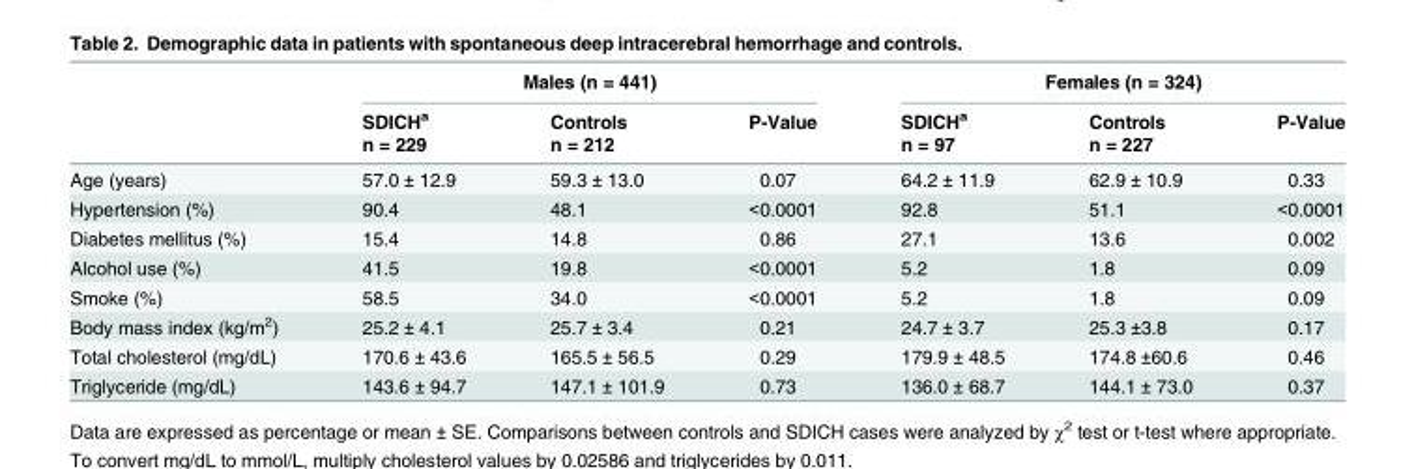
<table><thead><tr><td rowspan="3"></td><td colspan="3">Males (n = 441)</td><td colspan="3">Females (n = 324)</td></tr><tr><td rowspan="2">SDICH<sup>a</sup> n = 229</td><td rowspan="2">Controls n = 212</td><td rowspan="2">P-Value</td><td rowspan="2">SDICH<sup>a</sup> n = 97</td><td rowspan="2">Controls n = 227</td><td rowspan="2">P-Value</td></tr><tr></tr></thead><tbody><tr><td>Age (years)</td><td>57.0 ± 12.9</td><td>59.3 ± 13.0</td><td>0.07</td><td>64.2 ± 11.9</td><td>62.9 ± 10.9</td><td>0.33</td></tr><tr><td>Hypertension (%)</td><td>90.4</td><td>48.1</td><td>&lt;0.0001</td><td>92.8</td><td>51.1</td><td>&lt;0.0001</td></tr><tr><td>Diabetes mellitus (%)</td><td>15.4</td><td>14.8</td><td>0.86</td><td>27.1</td><td>13.6</td><td>0.002</td></tr><tr><td>Alcohol use (%)</td><td>41.5</td><td>19.8</td><td>&lt;0.0001</td><td>5.2</td><td>1.8</td><td>0.09</td></tr><tr><td>Smoke (%)</td><td>58.5</td><td>34.0</td><td>&lt;0.0001</td><td>5.2</td><td>1.8</td><td>0.09</td></tr><tr><td>Body mass index (kg/m<sup>2</sup>)</td><td>25.2 ± 4.1</td><td>25.7 ± 3.4</td><td>0.21</td><td>24.7 ± 3.7</td><td>25.3 ±3.8</td><td>0.17</td></tr><tr><td>Total cholesterol (mg/dL)</td><td>170.6 ± 43.6</td><td>165.5 ± 56.5</td><td>0.29</td><td>179.9 ± 48.5</td><td>174.8 ±60.6</td><td>0.46</td></tr><tr><td>Triglyceride (mg/dL)</td><td>143.6 ± 94.7</td><td>147.1 ± 101.9</td><td>0.73</td><td>136.0 ± 68.7</td><td>144.1 ± 73.0</td><td>0.37</td></tr></tbody></table>